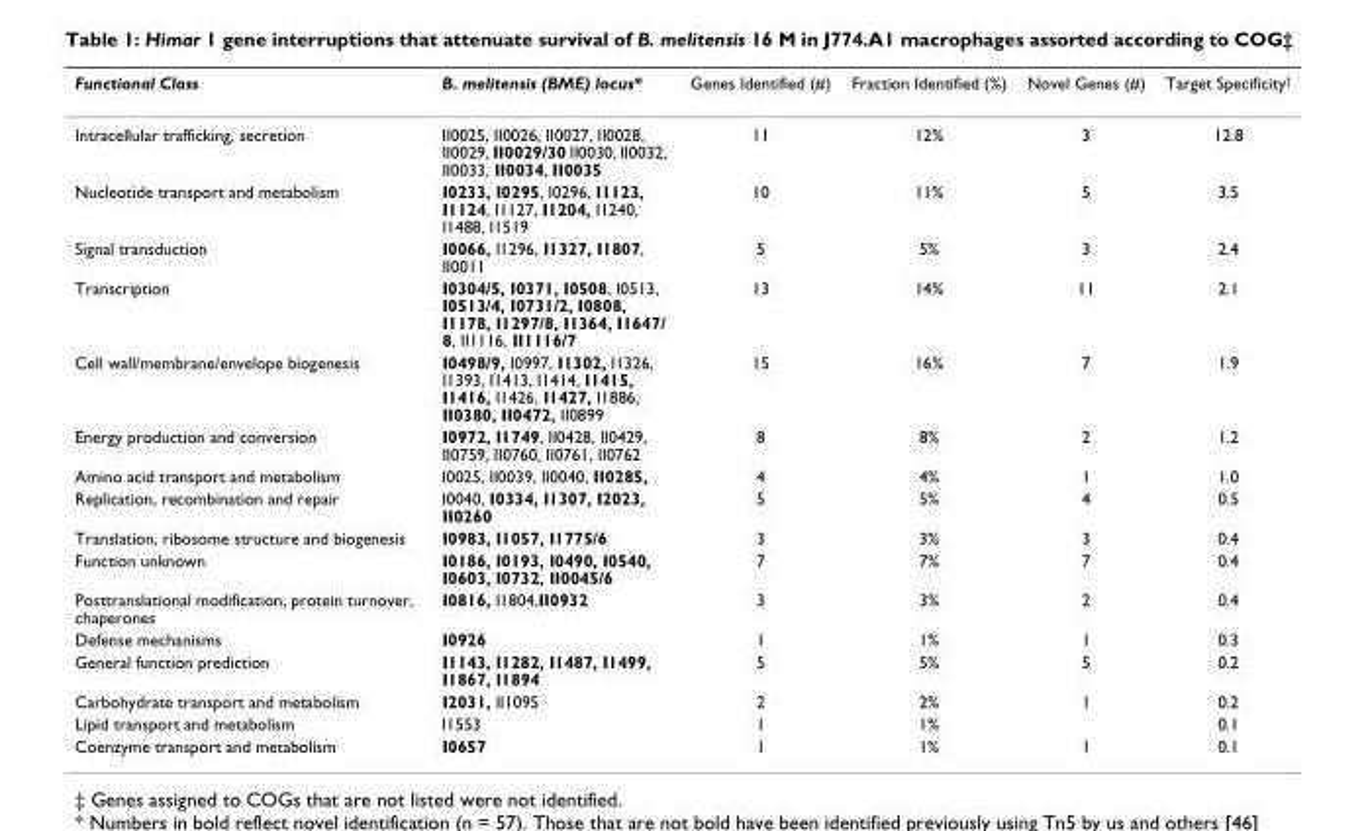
<table><thead><tr><td>Functional Class</td><td>B. melitensis (BME) locus*</td><td>Genes Identified (#)</td><td>Fraction Identified (%)</td><td>Novel Genes (#)</td><td>Target Specificity†</td></tr></thead><tbody><tr><td>Intracellular trafficking, secretion</td><td>II0025, II0026, II0027, II0028, II0029, II0029/30 II0030, II0032, II0033, II0034, II0035</td><td>11</td><td>12%</td><td>3</td><td>12.8</td></tr><tr><td>Nucleotide transport and metabolism</td><td>I0233, I0295, I0296, I1123, I1124, I1127, I1204, I1240, I1488, I1519</td><td>10</td><td>11%</td><td>5</td><td>3.5</td></tr><tr><td>Signal transduction</td><td>I0066, I1296, I1327, I1807, II0011</td><td>5</td><td>5%</td><td>3</td><td>2.4</td></tr><tr><td>Transcription</td><td>I0304/5, I0371, I0508, I0513, I0513/4, I0731/2, I0808, I1178, I1297/8, I1364, I1647/ 8, II1116, II1116/7</td><td>13</td><td>14%</td><td>11</td><td>2.1</td></tr><tr><td>Cell wall/membrane/envelope biogenesis</td><td>I0498/9, I0997, I1302, I1326, I1393, I1413, I1414, I1415, I1416, I1426, I1427, I1886, II0380, II0472, II0899</td><td>15</td><td>16%</td><td>7</td><td>1.9</td></tr><tr><td>Energy production and conversion</td><td>I0972, I1749, II0428, II0429, II0759, II0760, II0761, II0762</td><td>8</td><td>8%</td><td>2</td><td>1.2</td></tr><tr><td>Amino acid transport and metabolism</td><td>I0025, II0039, II0040, II0285,</td><td>4</td><td>4%</td><td>1</td><td>1.0</td></tr><tr><td>Replication, recombination and repair</td><td>I0040, I0334, I1307, I2023, II0260</td><td>5</td><td>5%</td><td>4</td><td>0.5</td></tr><tr><td>Translation, ribosome structure and biogenesis</td><td>I0983, I1057, I1775/6</td><td>3</td><td>3%</td><td>3</td><td>0.4</td></tr><tr><td>Function unknown</td><td>I0186, I0193, I0490, I0540, I0603, I0732, II0045/6</td><td>7</td><td>7%</td><td>7</td><td>0.4</td></tr><tr><td>Posttranslational modification, protein turnover, chaperones</td><td>I0816, I1804,II0932</td><td>3</td><td>3%</td><td>2</td><td>0.4</td></tr><tr><td>Defense mechanisms</td><td>I0926</td><td>1</td><td>1%</td><td>1</td><td>0.3</td></tr><tr><td>General function prediction</td><td>I1143, I1282, I1487, I1499, I1867, I1894</td><td>5</td><td>5%</td><td>5</td><td>0.2</td></tr><tr><td>Carbohydrate transport and metabolism</td><td>I2031, II1095</td><td>2</td><td>2%</td><td>1</td><td>0.2</td></tr><tr><td>Lipid transport and metabolism</td><td>I1553</td><td>1</td><td>1%</td><td></td><td>0.1</td></tr><tr><td>Coenzyme transport and metabolism</td><td>I0657</td><td>1</td><td>1%</td><td>1</td><td>0.1</td></tr></tbody></table>